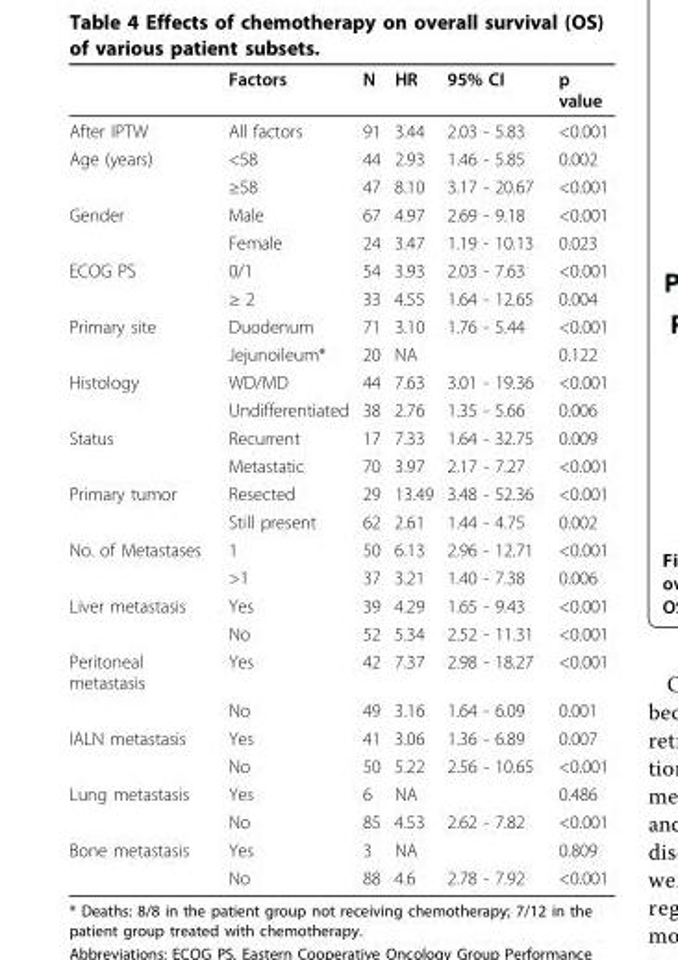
<table><thead><tr><td></td><td>Factors</td><td>N</td><td>HR</td><td>95% CI</td><td>p value</td></tr></thead><tbody><tr><td>After IPTW</td><td>All factors</td><td>91</td><td>3.44</td><td>2.03 - 5.83</td><td>&lt;0.001</td></tr><tr><td rowspan="2">Age (years)</td><td>&lt;58</td><td>44</td><td>2.93</td><td>1.46 - 5.85</td><td>0.002</td></tr><tr><td>≥58</td><td>47</td><td>8.10</td><td>3.17 - 20.67</td><td>&lt;0.001</td></tr><tr><td rowspan="2">Gender</td><td>Male</td><td>67</td><td>4.97</td><td>2.69 - 9.18</td><td>&lt;0.001</td></tr><tr><td>Female</td><td>24</td><td>3.47</td><td>1.19 - 10.13</td><td>0.023</td></tr><tr><td rowspan="2">ECOG PS</td><td>0/1</td><td>54</td><td>3.93</td><td>2.03 - 7.63</td><td>&lt;0.001</td></tr><tr><td>≥ 2</td><td>33</td><td>4.55</td><td>1.64 - 12.65</td><td>0.004</td></tr><tr><td rowspan="2">Primary site</td><td>Duodenum</td><td>71</td><td>3.10</td><td>1.76 - 5.44</td><td>&lt;0.001</td></tr><tr><td>Jejunoileum*</td><td>20</td><td>NA</td><td></td><td>0.122</td></tr><tr><td rowspan="2">Histology</td><td>WD/MD</td><td>44</td><td>7.63</td><td>3.01 - 19.36</td><td>&lt;0.001</td></tr><tr><td>Undifferentiated</td><td>38</td><td>2.76</td><td>1.35 - 5.66</td><td>0.006</td></tr><tr><td rowspan="2">Status</td><td>Recurrent</td><td>17</td><td>7.33</td><td>1.64 - 32.75</td><td>0.009</td></tr><tr><td>Metastatic</td><td>70</td><td>3.97</td><td>2.17 - 7.27</td><td>&lt;0.001</td></tr><tr><td rowspan="2">Primary tumor</td><td>Resected</td><td>29</td><td>13.49</td><td>3.48 - 52.36</td><td>&lt;0.001</td></tr><tr><td>Still present</td><td>62</td><td>2.61</td><td>1.44 - 4.75</td><td>0.002</td></tr><tr><td rowspan="2">No. of Metastases</td><td>1</td><td>50</td><td>6.13</td><td>2.96 - 12.71</td><td>&lt;0.001</td></tr><tr><td>&gt;1</td><td>37</td><td>3.21</td><td>1.40 - 7.38</td><td>0.006</td></tr><tr><td rowspan="2">Liver metastasis</td><td>Yes</td><td>39</td><td>4.29</td><td>1.65 - 9.43</td><td>&lt;0.001</td></tr><tr><td>No</td><td>52</td><td>5.34</td><td>2.52 - 11.31</td><td>&lt;0.001</td></tr><tr><td rowspan="2">Peritoneal metastasis</td><td>Yes</td><td>42</td><td>7.37</td><td>2.98 - 18.27</td><td>&lt;0.001</td></tr><tr><td>No</td><td>49</td><td>3.16</td><td>1.64 - 6.09</td><td>0.001</td></tr><tr><td rowspan="2">IALN metastasis</td><td>Yes</td><td>41</td><td>3.06</td><td>1.36 - 6.89</td><td>0.007</td></tr><tr><td>No</td><td>50</td><td>5.22</td><td>2.56 - 10.65</td><td>&lt;0.001</td></tr><tr><td rowspan="2">Lung metastasis</td><td>Yes</td><td>6</td><td>NA</td><td></td><td>0.486</td></tr><tr><td>No</td><td>85</td><td>4.53</td><td>2.62 - 7.82</td><td>&lt;0.001</td></tr><tr><td rowspan="2">Bone metastasis</td><td>Yes</td><td>3</td><td>NA</td><td></td><td>0.809</td></tr><tr><td>No</td><td>88</td><td>4.6</td><td>2.78 - 7.92</td><td>&lt;0.001</td></tr></tbody></table>